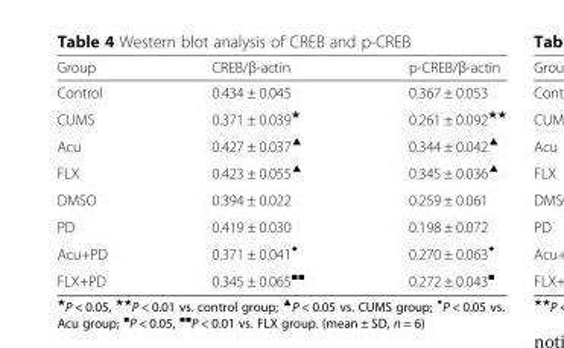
<table><thead><tr><td>Group</td><td>CREB/β-actin</td><td>p-CREB/β-actin</td></tr></thead><tbody><tr><td>Control</td><td>0.434 ± 0.045</td><td>0.367 ± 0.053</td></tr><tr><td>CUMS</td><td>0.371 ± 0.039<sup>★</sup></td><td>0.261 ± 0.092<sup>★★</sup></td></tr><tr><td>Acu</td><td>0.427 ± 0.037<sup>▲</sup></td><td>0.344 ± 0.042<sup>▲</sup></td></tr><tr><td>FLX</td><td>0.423 ± 0.055<sup>▲</sup></td><td>0.345 ± 0.036<sup>▲</sup></td></tr><tr><td>DMSO</td><td>0.394 ± 0.022</td><td>0.259 ± 0.061</td></tr><tr><td>PD</td><td>0.419 ± 0.030</td><td>0.198 ± 0.072</td></tr><tr><td>Acu+PD</td><td>0.371 ± 0.041<sup>◆</sup></td><td>0.270 ± 0.063<sup>◆</sup></td></tr><tr><td>FLX+PD</td><td>0.345 ± 0.065<sup>■■</sup></td><td>0.272 ± 0.043<sup>■</sup></td></tr></tbody></table>